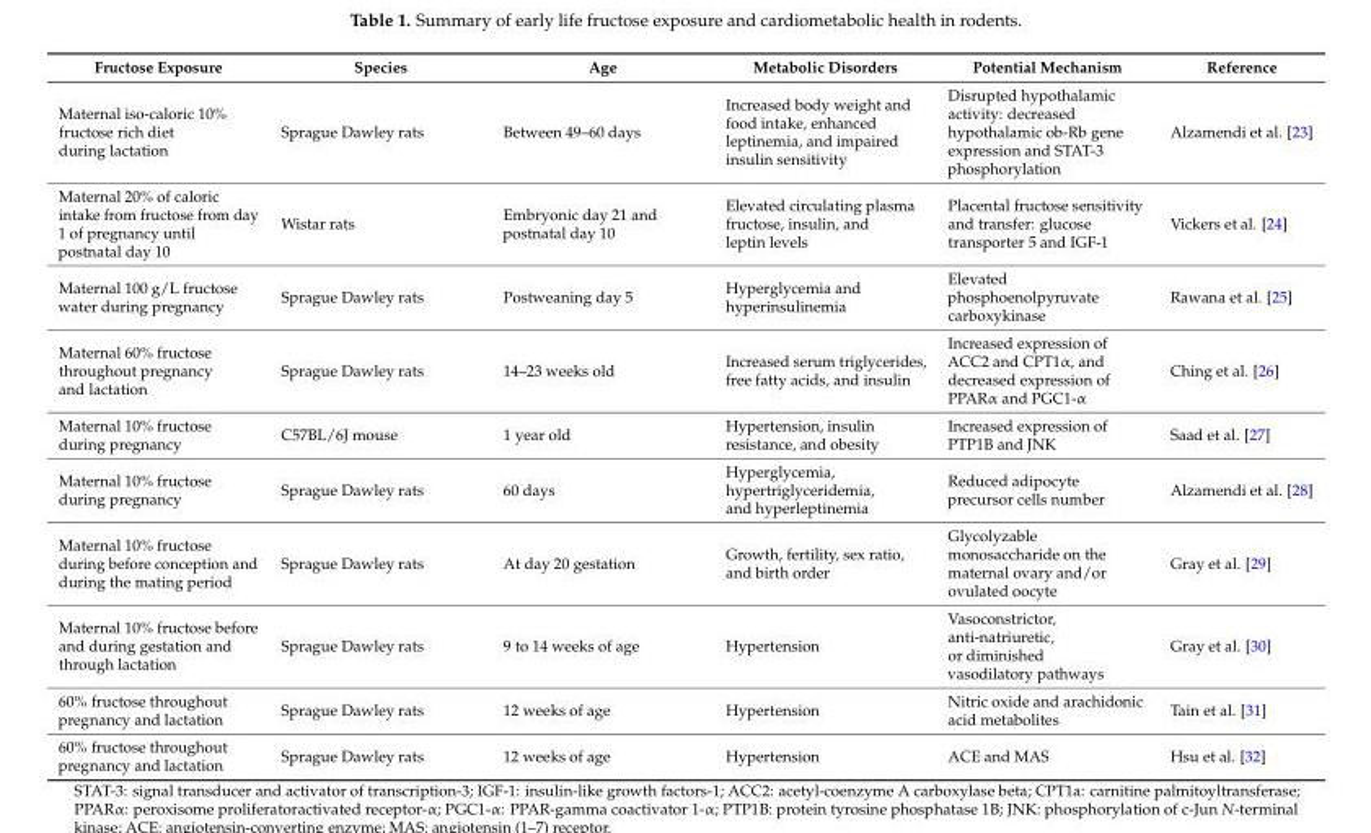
<table><thead><tr><td>Fructose Exposure</td><td>Species</td><td>Age</td><td>Metabolic Disorders</td><td>Potential Mechanism</td><td>Reference</td></tr></thead><tbody><tr><td>Maternal iso-caloric 10% fructose rich diet during lactation</td><td>Sprague Dawley rats</td><td>Between 49–60 days</td><td>Increased body weight and food intake, enhanced leptinemia, and impaired insulin sensitivity</td><td>Disrupted hypothalamic activity: decreased hypothalamic ob-Rb gene expression and STAT-3 phosphorylation</td><td>Alzamendi et al. [23]</td></tr><tr><td>Maternal 20% of caloric intake from fructose from day 1 of pregnancy until postnatal day 10</td><td>Wistar rats</td><td>Embryonic day 21 and postnatal day 10</td><td>Elevated circulating plasma fructose, insulin, and leptin levels</td><td>Placental fructose sensitivity and transfer: glucose transporter 5 and IGF-1</td><td>Vickers et al. [24]</td></tr><tr><td>Maternal 100 g/L fructose water during pregnancy</td><td>Sprague Dawley rats</td><td>Postweaning day 5</td><td>Hyperglycemia and hyperinsulinemia</td><td>Elevated phosphoenolpyruvate carboxykinase</td><td>Rawana et al. [25]</td></tr><tr><td>Maternal 60% fructose throughout pregnancy and lactation</td><td>Sprague Dawley rats</td><td>14–23 weeks old</td><td>Increased serum triglycerides, free fatty acids, and insulin</td><td>Increased expression of ACC2 and CPT1α, and decreased expression of PPARα and PGC1-α</td><td>Ching et al. [26]</td></tr><tr><td>Maternal 10% fructose during pregnancy</td><td>C57BL/6J mouse</td><td>1 year old</td><td>Hypertension, insulin resistance, and obesity</td><td>Increased expression of PTP1B and JNK</td><td>Saad et al. [27]</td></tr><tr><td>Maternal 10% fructose during pregnancy</td><td>Sprague Dawley rats</td><td>60 days</td><td>Hyperglycemia, hypertriglyceridemia, and hyperleptinemia</td><td>Reduced adipocyte precursor cells number</td><td>Alzamendi et al. [28]</td></tr><tr><td>Maternal 10% fructose during before conception and during the mating period</td><td>Sprague Dawley rats</td><td>At day 20 gestation</td><td>Growth, fertility, sex ratio, and birth order</td><td>Glycolyzable monosaccharide on the maternal ovary and/or ovulated oocyte</td><td>Gray et al. [29]</td></tr><tr><td>Maternal 10% fructose before and during gestation and through lactation</td><td>Sprague Dawley rats</td><td>9 to 14 weeks of age</td><td>Hypertension</td><td>Vasoconstrictor, anti-natriuretic, or diminished vasodilatory pathways</td><td>Gray et al. [30]</td></tr><tr><td>60% fructose throughout pregnancy and lactation</td><td>Sprague Dawley rats</td><td>12 weeks of age</td><td>Hypertension</td><td>Nitric oxide and arachidonic acid metabolites</td><td>Tain et al. [31]</td></tr><tr><td>60% fructose throughout pregnancy and lactation</td><td>Sprague Dawley rats</td><td>12 weeks of age</td><td>Hypertension</td><td>ACE and MAS</td><td>Hsu et al. [32]</td></tr></tbody></table>